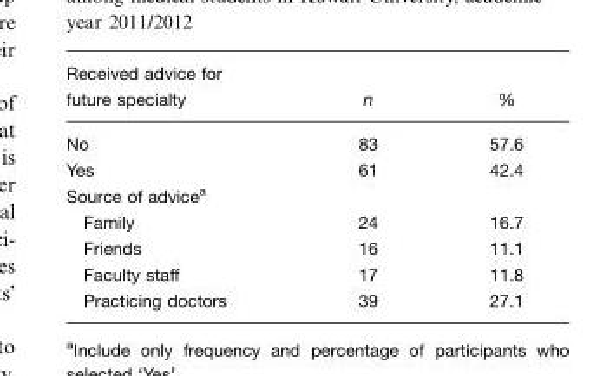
<table><thead><tr><td>Received advice for future specialty</td><td>n</td><td>%</td></tr></thead><tbody><tr><td>No</td><td>83</td><td>57.6</td></tr><tr><td>Yes</td><td>61</td><td>42.4</td></tr><tr><td colspan="3">Source of advice<sup>a</sup></td></tr><tr><td>Family</td><td>24</td><td>16.7</td></tr><tr><td>Friends</td><td>16</td><td>11.1</td></tr><tr><td>Faculty staff</td><td>17</td><td>11.8</td></tr><tr><td>Practicing doctors</td><td>39</td><td>27.1</td></tr></tbody></table>